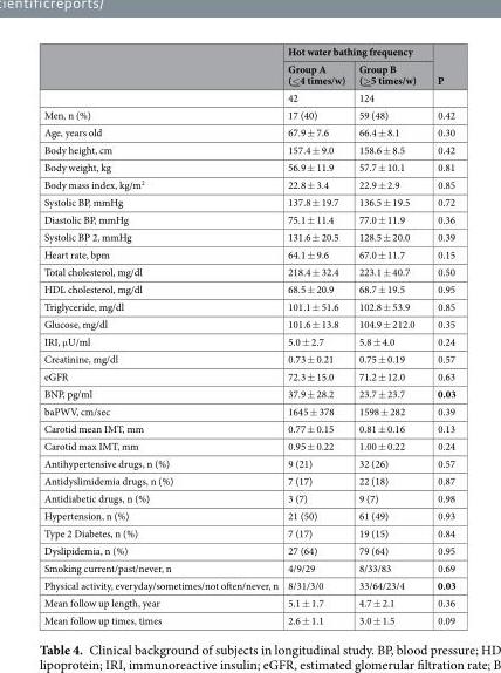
<table><thead><tr><td rowspan="2"></td><td colspan="2">Hot water bathing frequency</td><td rowspan="2">P</td></tr><tr><td>Group A (&lt;4 times/w)</td><td>Group B (&gt;5 times/w)</td></tr></thead><tbody><tr><td></td><td>42</td><td>124</td><td></td></tr><tr><td>Men, n (%)</td><td>17 (40)</td><td>59 (48)</td><td>0.42</td></tr><tr><td>Age, years old</td><td>67.9 ± 7.6</td><td>66.4 ± 8.1</td><td>0.30</td></tr><tr><td>Body height, cm</td><td>157.4 ± 9.0</td><td>158.6 ± 8.5</td><td>0.42</td></tr><tr><td>Body weight, kg</td><td>56.9 ± 11.9</td><td>57.7 ± 10.1</td><td>0.81</td></tr><tr><td>Body mass index, kg/m<sup>2</sup></td><td>22.8 ± 3.4</td><td>22.9 ± 2.9</td><td>0.85</td></tr><tr><td>Systolic BP, mmHg</td><td>137.8 ± 19.7</td><td>136.5 ± 19.5</td><td>0.72</td></tr><tr><td>Diastolic BP, mmHg</td><td>75.1 ± 11.4</td><td>77.0 ± 11.9</td><td>0.36</td></tr><tr><td>Systolic BP 2, mmHg</td><td>131.6 ± 20.5</td><td>128.5 ± 20.0</td><td>0.39</td></tr><tr><td>Heart rate, bpm</td><td>64.1 ± 9.6</td><td>67.0 ± 11.7</td><td>0.15</td></tr><tr><td>Total cholesterol, mg/dl</td><td>218.4 ± 32.4</td><td>223.1 ± 40.7</td><td>0.50</td></tr><tr><td>HDL cholesterol, mg/dl</td><td>68.5 ± 20.9</td><td>68.7 ± 19.5</td><td>0.95</td></tr><tr><td>Triglyceride, mg/dl</td><td>101.1 ± 51.6</td><td>102.8 ± 53.9</td><td>0.85</td></tr><tr><td>Glucose, mg/dl</td><td>101.6 ± 13.8</td><td>104.9 ± 212.0</td><td>0.35</td></tr><tr><td>IRI, μU/ml</td><td>5.0 ± 2.7</td><td>5.8 ± 4.0</td><td>0.24</td></tr><tr><td>Creatinine, mg/dl</td><td>0.73 ± 0.21</td><td>0.75 ± 0.19</td><td>0.57</td></tr><tr><td>eGFR</td><td>72.3 ± 15.0</td><td>71.2 ± 12.0</td><td>0.63</td></tr><tr><td>BNP, pg/ml</td><td>37.9 ± 28.2</td><td>23.7 ± 23.7</td><td>0.03</td></tr><tr><td>baPWV, cm/sec</td><td>1645 ± 378</td><td>1598 ± 282</td><td>0.39</td></tr><tr><td>Carotid mean IMT, mm</td><td>0.77 ± 0.15</td><td>0.81 ± 0.16</td><td>0.13</td></tr><tr><td>Carotid max IMT, mm</td><td>0.95 ± 0.22</td><td>1.00 ± 0.22</td><td>0.24</td></tr><tr><td>Antihypertensive drugs, n (%)</td><td>9 (21)</td><td>32 (26)</td><td>0.57</td></tr><tr><td>Antidyslimidemia drugs, n (%)</td><td>7 (17)</td><td>22 (18)</td><td>0.87</td></tr><tr><td>Antidiabetic drugs, n (%)</td><td>3 (7)</td><td>9 (7)</td><td>0.98</td></tr><tr><td>Hypertension, n (%)</td><td>21 (50)</td><td>61 (49)</td><td>0.93</td></tr><tr><td>Type 2 Diabetes, n (%)</td><td>7 (17)</td><td>19 (15)</td><td>0.84</td></tr><tr><td>Dyslipidemia, n (%)</td><td>27 (64)</td><td>79 (64)</td><td>0.95</td></tr><tr><td>Smoking current/past/never, n</td><td>4/9/29</td><td>8/33/83</td><td>0.69</td></tr><tr><td>Physical activity, everyday/sometimes/not often/never, n</td><td>8/31/3/0</td><td>33/64/23/4</td><td>0.03</td></tr><tr><td>Mean follow up length, year</td><td>5.1 ± 1.7</td><td>4.7 ± 2.1</td><td>0.36</td></tr><tr><td>Mean follow up times, times</td><td>2.6 ± 1.1</td><td>3.0 ± 1.5</td><td>0.09</td></tr></tbody></table>